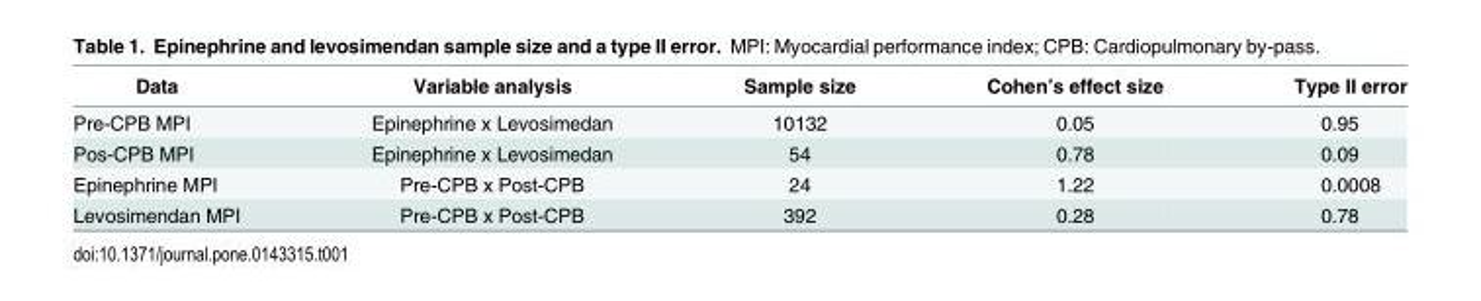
<table><thead><tr><td>Data</td><td>Variable analysis</td><td>Sample size</td><td>Cohen’s effect size</td><td>Type II error</td></tr></thead><tbody><tr><td>Pre-CPB MPI</td><td>Epinephrine x Levosimedan</td><td>10132</td><td>0.05</td><td>0.95</td></tr><tr><td>Pos-CPB MPI</td><td>Epinephrine x Levosimedan</td><td>54</td><td>0.78</td><td>0.09</td></tr><tr><td>Epinephrine MPI</td><td>Pre-CPB x Post-CPB</td><td>24</td><td>1.22</td><td>0.0008</td></tr><tr><td>Levosimendan MPI</td><td>Pre-CPB x Post-CPB</td><td>392</td><td>0.28</td><td>0.78</td></tr></tbody></table>